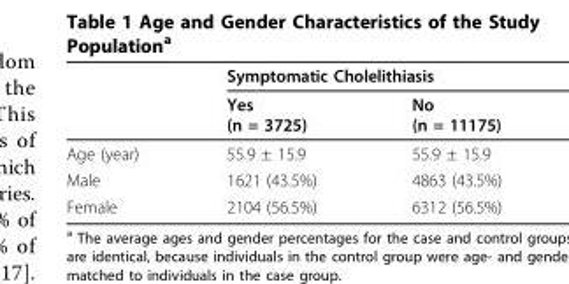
<table><thead><tr><td rowspan="2"></td><td colspan="2">Symptomatic Cholelithiasis</td></tr><tr><td>Yes (n = 3725)</td><td>No (n = 11175)</td></tr></thead><tbody><tr><td>Age (year)</td><td>55.9 ± 15.9</td><td>55.9 ± 15.9</td></tr><tr><td>Male</td><td>1621 (43.5%)</td><td>4863 (43.5%)</td></tr><tr><td>Female</td><td>2104 (56.5%)</td><td>6312 (56.5%)</td></tr></tbody></table>